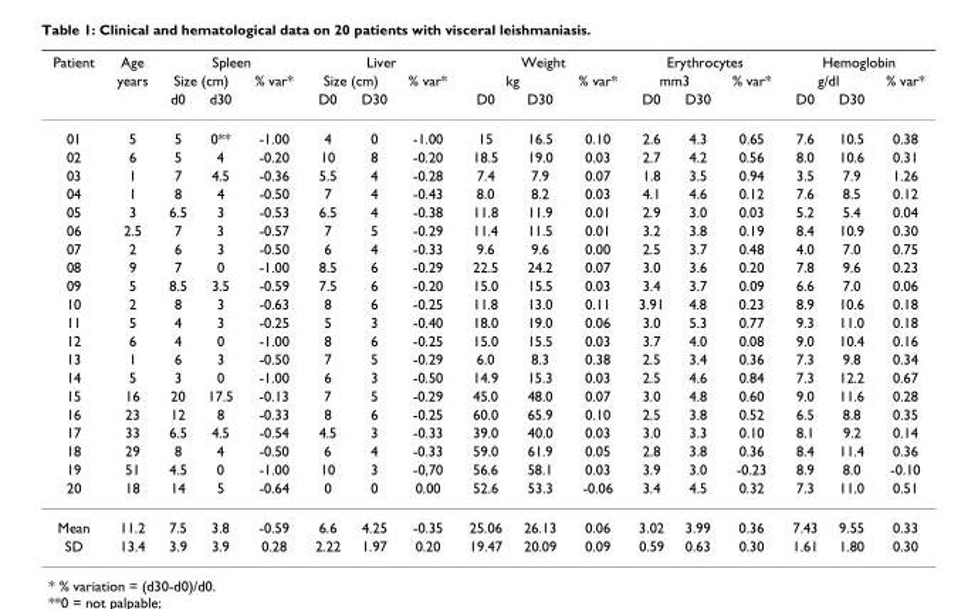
<table><thead><tr><td rowspan="3">Patient</td><td rowspan="3">Age years</td><td colspan="3">Spleen</td><td colspan="3">Liver</td><td colspan="3">Weight</td><td colspan="3">Erythrocytes</td><td colspan="3">Hemoglobin</td></tr><tr><td colspan="2">Size (cm)</td><td rowspan="2">% var*</td><td colspan="2">Size (cm)</td><td rowspan="2">% var*</td><td colspan="2">kg</td><td rowspan="2">% var*</td><td colspan="2">mm3</td><td rowspan="2">% var*</td><td colspan="2">g/dl</td><td rowspan="2">% var*</td></tr><tr><td>d0</td><td>d30</td><td>D0</td><td>D30</td><td>D0</td><td>D30</td><td>D0</td><td>D30</td><td>D0</td><td>D30</td></tr></thead><tbody><tr><td>01</td><td>5</td><td>5</td><td>0**</td><td>-1.00</td><td>4</td><td>0</td><td>-1.00</td><td>15</td><td>16.5</td><td>0.10</td><td>2.6</td><td>4.3</td><td>0.65</td><td>7.6</td><td>10.5</td><td>0.38</td></tr><tr><td>02</td><td>6</td><td>5</td><td>4</td><td>-0.20</td><td>10</td><td>8</td><td>-0.20</td><td>18.5</td><td>19.0</td><td>0.03</td><td>2.7</td><td>4.2</td><td>0.56</td><td>8.0</td><td>10.6</td><td>0.31</td></tr><tr><td>03</td><td>1</td><td>7</td><td>4.5</td><td>-0.36</td><td>5.5</td><td>4</td><td>-0.28</td><td>7.4</td><td>7.9</td><td>0.07</td><td>1.8</td><td>3.5</td><td>0.94</td><td>3.5</td><td>7.9</td><td>1.26</td></tr><tr><td>04</td><td>1</td><td>8</td><td>4</td><td>-0.50</td><td>7</td><td>4</td><td>-0.43</td><td>8.0</td><td>8.2</td><td>0.03</td><td>4.1</td><td>4.6</td><td>0.12</td><td>7.6</td><td>8.5</td><td>0.12</td></tr><tr><td>05</td><td>3</td><td>6.5</td><td>3</td><td>-0.53</td><td>6.5</td><td>4</td><td>-0.38</td><td>11.8</td><td>11.9</td><td>0.01</td><td>2.9</td><td>3.0</td><td>0.03</td><td>5.2</td><td>5.4</td><td>0.04</td></tr><tr><td>06</td><td>2.5</td><td>7</td><td>3</td><td>-0.57</td><td>7</td><td>5</td><td>-0.29</td><td>11.4</td><td>11.5</td><td>0.01</td><td>3.2</td><td>3.8</td><td>0.19</td><td>8.4</td><td>10.9</td><td>0.30</td></tr><tr><td>07</td><td>2</td><td>6</td><td>3</td><td>-0.50</td><td>6</td><td>4</td><td>-0.33</td><td>9.6</td><td>9.6</td><td>0.00</td><td>2.5</td><td>3.7</td><td>0.48</td><td>4.0</td><td>7.0</td><td>0.75</td></tr><tr><td>08</td><td>9</td><td>7</td><td>0</td><td>-1.00</td><td>8.5</td><td>6</td><td>-0.29</td><td>22.5</td><td>24.2</td><td>0.07</td><td>3.0</td><td>3.6</td><td>0.20</td><td>7.8</td><td>9.6</td><td>0.23</td></tr><tr><td>09</td><td>5</td><td>8.5</td><td>3.5</td><td>-0.59</td><td>7.5</td><td>6</td><td>-0.20</td><td>15.0</td><td>15.5</td><td>0.03</td><td>3.4</td><td>3.7</td><td>0.09</td><td>6.6</td><td>7.0</td><td>0.06</td></tr><tr><td>10</td><td>2</td><td>8</td><td>3</td><td>-0.63</td><td>8</td><td>6</td><td>-0.25</td><td>11.8</td><td>13.0</td><td>0.11</td><td>3.91</td><td>4.8</td><td>0.23</td><td>8.9</td><td>10.6</td><td>0.18</td></tr><tr><td>11</td><td>5</td><td>4</td><td>3</td><td>-0.25</td><td>5</td><td>3</td><td>-0.40</td><td>18.0</td><td>19.0</td><td>0.06</td><td>3.0</td><td>5.3</td><td>0.77</td><td>9.3</td><td>11.0</td><td>0.18</td></tr><tr><td>12</td><td>6</td><td>4</td><td>0</td><td>-1.00</td><td>8</td><td>6</td><td>-0.25</td><td>15.0</td><td>15.5</td><td>0.03</td><td>3.7</td><td>4.0</td><td>0.08</td><td>9.0</td><td>10.4</td><td>0.16</td></tr><tr><td>13</td><td>1</td><td>6</td><td>3</td><td>-0.50</td><td>7</td><td>5</td><td>-0.29</td><td>6.0</td><td>8.3</td><td>0.38</td><td>2.5</td><td>3.4</td><td>0.36</td><td>7.3</td><td>9.8</td><td>0.34</td></tr><tr><td>14</td><td>5</td><td>3</td><td>0</td><td>-1.00</td><td>6</td><td>3</td><td>-0.50</td><td>14.9</td><td>15.3</td><td>0.03</td><td>2.5</td><td>4.6</td><td>0.84</td><td>7.3</td><td>12.2</td><td>0.67</td></tr><tr><td>15</td><td>16</td><td>20</td><td>17.5</td><td>-0.13</td><td>7</td><td>5</td><td>-0.29</td><td>45.0</td><td>48.0</td><td>0.07</td><td>3.0</td><td>4.8</td><td>0.60</td><td>9.0</td><td>11.6</td><td>0.28</td></tr><tr><td>16</td><td>23</td><td>12</td><td>8</td><td>-0.33</td><td>8</td><td>6</td><td>-0.25</td><td>60.0</td><td>65.9</td><td>0.10</td><td>2.5</td><td>3.8</td><td>0.52</td><td>6.5</td><td>8.8</td><td>0.35</td></tr><tr><td>17</td><td>33</td><td>6.5</td><td>4.5</td><td>-0.54</td><td>4.5</td><td>3</td><td>-0.33</td><td>39.0</td><td>40.0</td><td>0.03</td><td>3.0</td><td>3.3</td><td>0.10</td><td>8.1</td><td>9.2</td><td>0.14</td></tr><tr><td>18</td><td>29</td><td>8</td><td>4</td><td>-0.50</td><td>6</td><td>4</td><td>-0.33</td><td>59.0</td><td>61.9</td><td>0.05</td><td>2.8</td><td>3.8</td><td>0.36</td><td>8.4</td><td>11.4</td><td>0.36</td></tr><tr><td>19</td><td>51</td><td>4.5</td><td>0</td><td>-1.00</td><td>10</td><td>3</td><td>-0,70</td><td>56.6</td><td>58.1</td><td>0.03</td><td>3.9</td><td>3.0</td><td>-0.23</td><td>8.9</td><td>8.0</td><td>-0.10</td></tr><tr><td>20</td><td>18</td><td>14</td><td>5</td><td>-0.64</td><td>0</td><td>0</td><td>0.00</td><td>52.6</td><td>53.3</td><td>-0.06</td><td>3.4</td><td>4.5</td><td>0.32</td><td>7.3</td><td>11.0</td><td>0.51</td></tr><tr><td>Mean</td><td>11.2</td><td>7.5</td><td>3.8</td><td>-0.59</td><td>6.6</td><td>4.25</td><td>-0.35</td><td>25.06</td><td>26.13</td><td>0.06</td><td>3.02</td><td>3.99</td><td>0.36</td><td>7.43</td><td>9.55</td><td>0.33</td></tr><tr><td>SD</td><td>13.4</td><td>3.9</td><td>3.9</td><td>0.28</td><td>2.22</td><td>1.97</td><td>0.20</td><td>19.47</td><td>20.09</td><td>0.09</td><td>0.59</td><td>0.63</td><td>0.30</td><td>1.61</td><td>1.80</td><td>0.30</td></tr></tbody></table>